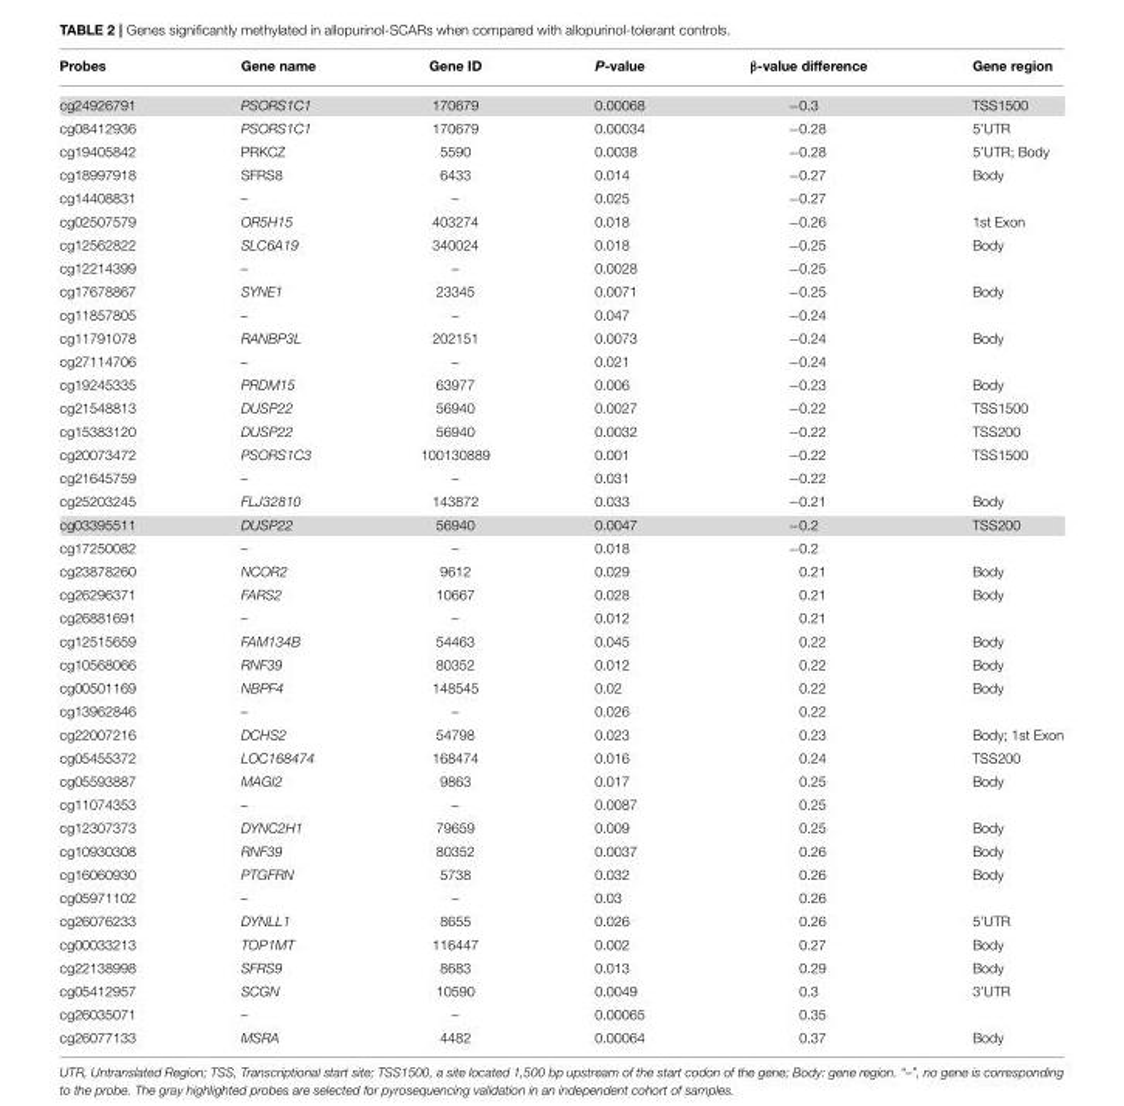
<table><thead><tr><td>Probes</td><td>Gene name</td><td>Gene ID</td><td>P-value</td><td>β-value difference</td><td>Gene region</td></tr></thead><tbody><tr><td>cg24926791</td><td>PSORS1C1</td><td>170679</td><td>0.00068</td><td>−0.3</td><td>TSS1500</td></tr><tr><td>cg08412936</td><td>PSORS1C1</td><td>170679</td><td>0.00034</td><td>−0.28</td><td>5’UTR</td></tr><tr><td>cg19405842</td><td>PRKCZ</td><td>5590</td><td>0.0038</td><td>−0.28</td><td>5’UTR; Body</td></tr><tr><td>cg18997918</td><td>SFRS8</td><td>6433</td><td>0.014</td><td>−0.27</td><td>Body</td></tr><tr><td>cg14408831</td><td>–</td><td>–</td><td>0.025</td><td>−0.27</td><td></td></tr><tr><td>cg02507579</td><td>OR5H15</td><td>403274</td><td>0.018</td><td>−0.26</td><td>1st Exon</td></tr><tr><td>cg12562822</td><td>SLC6A19</td><td>340024</td><td>0.018</td><td>−0.25</td><td>Body</td></tr><tr><td>cg12214399</td><td>–</td><td>–</td><td>0.0028</td><td>−0.25</td><td></td></tr><tr><td>cg17678867</td><td>SYNE1</td><td>23345</td><td>0.0071</td><td>−0.25</td><td>Body</td></tr><tr><td>cg11857805</td><td>–</td><td>–</td><td>0.047</td><td>−0.24</td><td></td></tr><tr><td>cg11791078</td><td>RANBP3L</td><td>202151</td><td>0.0073</td><td>−0.24</td><td>Body</td></tr><tr><td>cg27114706</td><td>–</td><td>–</td><td>0.021</td><td>−0.24</td><td></td></tr><tr><td>cg19245335</td><td>PRDM15</td><td>63977</td><td>0.006</td><td>−0.23</td><td>Body</td></tr><tr><td>cg21548813</td><td>DUSP22</td><td>56940</td><td>0.0027</td><td>−0.22</td><td>TSS1500</td></tr><tr><td>cg15383120</td><td>DUSP22</td><td>56940</td><td>0.0032</td><td>−0.22</td><td>TSS200</td></tr><tr><td>cg20073472</td><td>PSORS1C3</td><td>100130889</td><td>0.001</td><td>−0.22</td><td>TSS1500</td></tr><tr><td>cg21645759</td><td>–</td><td>–</td><td>0.031</td><td>−0.22</td><td></td></tr><tr><td>cg25203245</td><td>FLJ32810</td><td>143872</td><td>0.033</td><td>−0.21</td><td>Body</td></tr><tr><td>cg03395511</td><td>DUSP22</td><td>56940</td><td>0.0047</td><td>−0.2</td><td>TSS200</td></tr><tr><td>cg17250082</td><td>–</td><td>–</td><td>0.018</td><td>−0.2</td><td></td></tr><tr><td>cg23878260</td><td>NCOR2</td><td>9612</td><td>0.029</td><td>0.21</td><td>Body</td></tr><tr><td>cg26296371</td><td>FARS2</td><td>10667</td><td>0.028</td><td>0.21</td><td>Body</td></tr><tr><td>cg26881691</td><td>–</td><td>–</td><td>0.012</td><td>0.21</td><td></td></tr><tr><td>cg12515659</td><td>FAM134B</td><td>54463</td><td>0.045</td><td>0.22</td><td>Body</td></tr><tr><td>cg10568066</td><td>RNF39</td><td>80352</td><td>0.012</td><td>0.22</td><td>Body</td></tr><tr><td>cg00501169</td><td>NBPF4</td><td>148545</td><td>0.02</td><td>0.22</td><td>Body</td></tr><tr><td>cg13962846</td><td>–</td><td>–</td><td>0.026</td><td>0.22</td><td></td></tr><tr><td>cg22007216</td><td>DCHS2</td><td>54798</td><td>0.023</td><td>0.23</td><td>Body; 1st Exon</td></tr><tr><td>cg05455372</td><td>LOC168474</td><td>168474</td><td>0.016</td><td>0.24</td><td>TSS200</td></tr><tr><td>cg05593887</td><td>MAGI2</td><td>9863</td><td>0.017</td><td>0.25</td><td>Body</td></tr><tr><td>cg11074353</td><td>–</td><td>–</td><td>0.0087</td><td>0.25</td><td></td></tr><tr><td>cg12307373</td><td>DYNC2H1</td><td>79659</td><td>0.009</td><td>0.25</td><td>Body</td></tr><tr><td>cg10930308</td><td>RNF39</td><td>80352</td><td>0.0037</td><td>0.26</td><td>Body</td></tr><tr><td>cg16060930</td><td>PTGFRN</td><td>5738</td><td>0.032</td><td>0.26</td><td>Body</td></tr><tr><td>cg05971102</td><td>–</td><td>–</td><td>0.03</td><td>0.26</td><td></td></tr><tr><td>cg26076233</td><td>DYNLL1</td><td>8655</td><td>0.026</td><td>0.26</td><td>5’UTR</td></tr><tr><td>cg00033213</td><td>TOP1MT</td><td>116447</td><td>0.002</td><td>0.27</td><td>Body</td></tr><tr><td>cg22138998</td><td>SFRS9</td><td>8683</td><td>0.013</td><td>0.29</td><td>Body</td></tr><tr><td>cg05412957</td><td>SCGN</td><td>10590</td><td>0.0049</td><td>0.3</td><td>3’UTR</td></tr><tr><td>cg26035071</td><td>–</td><td>–</td><td>0.00065</td><td>0.35</td><td></td></tr><tr><td>cg26077133</td><td>MSRA</td><td>4482</td><td>0.00064</td><td>0.37</td><td>Body</td></tr></tbody></table>